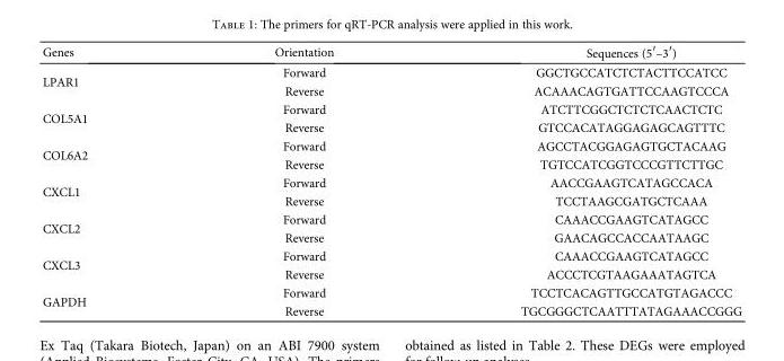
<table><thead><tr><td>Genes</td><td>Orientation</td><td>Sequences (5′–3′)</td></tr></thead><tbody><tr><td rowspan="2">LPAR1</td><td>Forward</td><td>GGCTGCCATCTCTACTTCCATCC</td></tr><tr><td>Reverse</td><td>ACAAACAGTGATTCCAAGTCCCA</td></tr><tr><td rowspan="2">COL5A1</td><td>Forward</td><td>ATCTTCGGCTCTCTCAACTCTC</td></tr><tr><td>Reverse</td><td>GTCCACATAGGAGAGCAGTTTC</td></tr><tr><td rowspan="2">COL6A2</td><td>Forward</td><td>AGCCTACGGAGAGTGCTACAAG</td></tr><tr><td>Reverse</td><td>TGTCCATCGGTCCCGTTCTTGC</td></tr><tr><td rowspan="2">CXCL1</td><td>Forward</td><td>AACCGAAGTCATAGCCACA</td></tr><tr><td>Reverse</td><td>TCCTAAGCGATGCTCAAA</td></tr><tr><td rowspan="2">CXCL2</td><td>Forward</td><td>CAAACCGAAGTCATAGCC</td></tr><tr><td>Reverse</td><td>GAACAGCCACCAATAAGC</td></tr><tr><td rowspan="2">CXCL3</td><td>Forward</td><td>CAAACCGAAGTCATAGCC</td></tr><tr><td>Reverse</td><td>ACCCTCGTAAGAAATAGTCA</td></tr><tr><td rowspan="2">GAPDH</td><td>Forward</td><td>TCCTCACAGTTGCCATGTAGACCC</td></tr><tr><td>Reverse</td><td>TGCGGGCTCAATTTATAGAAACCGGG</td></tr></tbody></table>